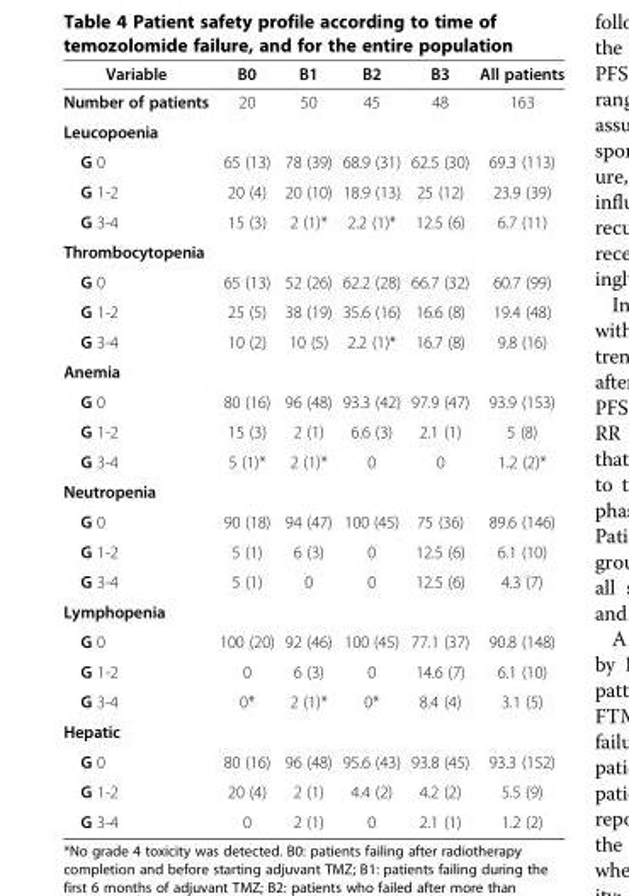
<table><thead><tr><td>Variable</td><td>B0</td><td>B1</td><td>B2</td><td>B3</td><td>All patients</td></tr></thead><tbody><tr><td>Number of patients</td><td>20</td><td>50</td><td>45</td><td>48</td><td>163</td></tr><tr><td colspan="6">Leucopoenia</td></tr><tr><td>G 0</td><td>65 (13)</td><td>78 (39)</td><td>68.9 (31)</td><td>62.5 (30)</td><td>69.3 (113)</td></tr><tr><td>G 1-2</td><td>20 (4)</td><td>20 (10)</td><td>18.9 (13)</td><td>25 (12)</td><td>23.9 (39)</td></tr><tr><td>G 3-4</td><td>15 (3)</td><td>2 (1)*</td><td>2.2 (1)*</td><td>12.5 (6)</td><td>6.7 (11)</td></tr><tr><td colspan="6">Thrombocytopenia</td></tr><tr><td>G 0</td><td>65 (13)</td><td>52 (26)</td><td>62.2 (28)</td><td>66.7 (32)</td><td>60.7 (99)</td></tr><tr><td>G 1-2</td><td>25 (5)</td><td>38 (19)</td><td>35.6 (16)</td><td>16.6 (8)</td><td>19.4 (48)</td></tr><tr><td>G 3-4</td><td>10 (2)</td><td>10 (5)</td><td>2.2 (1)*</td><td>16.7 (8)</td><td>9.8 (16)</td></tr><tr><td colspan="6">Anemia</td></tr><tr><td>G 0</td><td>80 (16)</td><td>96 (48)</td><td>93.3 (42)</td><td>97.9 (47)</td><td>93.9 (153)</td></tr><tr><td>G 1-2</td><td>15 (3)</td><td>2 (1)</td><td>6.6 (3)</td><td>2.1 (1)</td><td>5 (8)</td></tr><tr><td>G 3-4</td><td>5 (1)*</td><td>2 (1)*</td><td>0</td><td>0</td><td>1.2 (2)*</td></tr><tr><td colspan="6">Neutropenia</td></tr><tr><td>G 0</td><td>90 (18)</td><td>94 (47)</td><td>100 (45)</td><td>75 (36)</td><td>89.6 (146)</td></tr><tr><td>G 1-2</td><td>5 (1)</td><td>6 (3)</td><td>0</td><td>12.5 (6)</td><td>6.1 (10)</td></tr><tr><td>G 3-4</td><td>5 (1)</td><td>0</td><td>0</td><td>12.5 (6)</td><td>4.3 (7)</td></tr><tr><td colspan="6">Lymphopenia</td></tr><tr><td>G 0</td><td>100 (20)</td><td>92 (46)</td><td>100 (45)</td><td>77.1 (37)</td><td>90.8 (148)</td></tr><tr><td>G 1-2</td><td>0</td><td>6 (3)</td><td>0</td><td>14.6 (7)</td><td>6.1 (10)</td></tr><tr><td>G 3-4</td><td>0*</td><td>2 (1)*</td><td>0*</td><td>8.4 (4)</td><td>3.1 (5)</td></tr><tr><td colspan="6">Hepatic</td></tr><tr><td>G 0</td><td>80 (16)</td><td>96 (48)</td><td>95.6 (43)</td><td>93.8 (45)</td><td>93.3 (152)</td></tr><tr><td>G 1-2</td><td>20 (4)</td><td>2 (1)</td><td>4.4 (2)</td><td>4.2 (2)</td><td>5.5 (9)</td></tr><tr><td>G 3-4</td><td>0</td><td>2 (1)</td><td>0</td><td>2.1 (1)</td><td>1.2 (2)</td></tr></tbody></table>